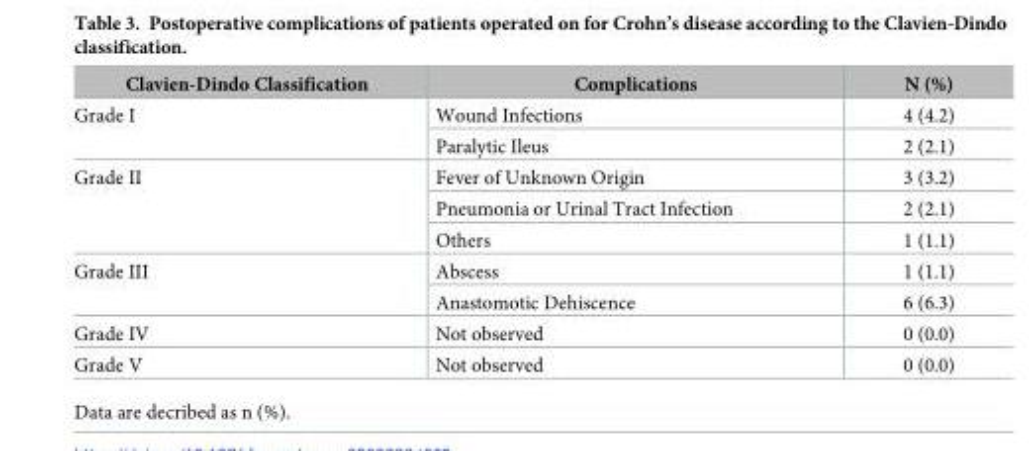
<table><thead><tr><td>Clavien-Dindo Classification</td><td>Complications</td><td>N (%)</td></tr></thead><tbody><tr><td rowspan="2">Grade I</td><td>Wound Infections</td><td>4 (4.2)</td></tr><tr><td>Paralytic Ileus</td><td>2 (2.1)</td></tr><tr><td rowspan="3">Grade II</td><td>Fever of Unknown Origin</td><td>3 (3.2)</td></tr><tr><td>Pneumonia or Urinal Tract Infection</td><td>2 (2.1)</td></tr><tr><td>Others</td><td>1 (1.1)</td></tr><tr><td rowspan="2">Grade III</td><td>Abscess</td><td>1 (1.1)</td></tr><tr><td>Anastomotic Dehiscence</td><td>6 (6.3)</td></tr><tr><td>Grade IV</td><td>Not observed</td><td>0 (0.0)</td></tr><tr><td>Grade V</td><td>Not observed</td><td>0 (0.0)</td></tr></tbody></table>